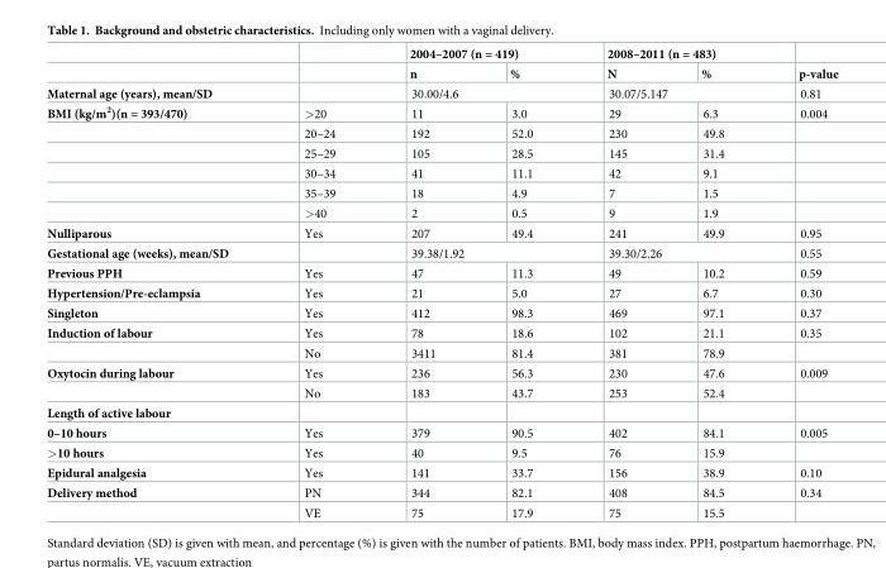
<table><thead><tr><td rowspan="2"></td><td rowspan="2"></td><td colspan="2">2004–2007 (n = 419)</td><td colspan="2">2008–2011 (n = 483)</td><td rowspan="2">p-value</td></tr><tr><td>n</td><td>%</td><td>N</td><td>%</td></tr></thead><tbody><tr><td>Maternal age (years), mean/SD</td><td></td><td colspan="2">30.00/4.6</td><td colspan="2">30.07/5.147</td><td>0.81</td></tr><tr><td rowspan="6">BMI (kg/m<sup>2</sup>)(n = 393/470)</td><td>&gt;20</td><td>11</td><td>3.0</td><td>29</td><td>6.3</td><td>0.004</td></tr><tr><td>20–24</td><td>192</td><td>52.0</td><td>230</td><td>49.8</td><td></td></tr><tr><td>25–29</td><td>105</td><td>28.5</td><td>145</td><td>31.4</td><td></td></tr><tr><td>30–34</td><td>41</td><td>11.1</td><td>42</td><td>9.1</td><td></td></tr><tr><td>35–39</td><td>18</td><td>4.9</td><td>7</td><td>1.5</td><td></td></tr><tr><td>&gt;40</td><td>2</td><td>0.5</td><td>9</td><td>1.9</td><td></td></tr><tr><td>Nulliparous</td><td>Yes</td><td>207</td><td>49.4</td><td>241</td><td>49.9</td><td>0.95</td></tr><tr><td>Gestational age (weeks), mean/SD</td><td></td><td colspan="2">39.38/1.92</td><td colspan="2">39.30/2.26</td><td>0.55</td></tr><tr><td>Previous PPH</td><td>Yes</td><td>47</td><td>11.3</td><td>49</td><td>10.2</td><td>0.59</td></tr><tr><td>Hypertension/Pre-eclampsia</td><td>Yes</td><td>21</td><td>5.0</td><td>27</td><td>6.7</td><td>0.30</td></tr><tr><td>Singleton</td><td>Yes</td><td>412</td><td>98.3</td><td>469</td><td>97.1</td><td>0.37</td></tr><tr><td rowspan="2">Induction of labour</td><td>Yes</td><td>78</td><td>18.6</td><td>102</td><td>21.1</td><td>0.35</td></tr><tr><td>No</td><td>3411</td><td>81.4</td><td>381</td><td>78.9</td><td></td></tr><tr><td rowspan="2">Oxytocin during labour</td><td>Yes</td><td>236</td><td>56.3</td><td>230</td><td>47.6</td><td>0.009</td></tr><tr><td>No</td><td>183</td><td>43.7</td><td>253</td><td>52.4</td><td></td></tr><tr><td colspan="7">Length of active labour</td></tr><tr><td>0–10 hours</td><td>Yes</td><td>379</td><td>90.5</td><td>402</td><td>84.1</td><td>0.005</td></tr><tr><td>&gt;10 hours</td><td>Yes</td><td>40</td><td>9.5</td><td>76</td><td>15.9</td><td></td></tr><tr><td>Epidural analgesia</td><td>Yes</td><td>141</td><td>33.7</td><td>156</td><td>38.9</td><td>0.10</td></tr><tr><td rowspan="2">Delivery method</td><td>PN</td><td>344</td><td>82.1</td><td>408</td><td>84.5</td><td>0.34</td></tr><tr><td>VE</td><td>75</td><td>17.9</td><td>75</td><td>15.5</td><td></td></tr></tbody></table>